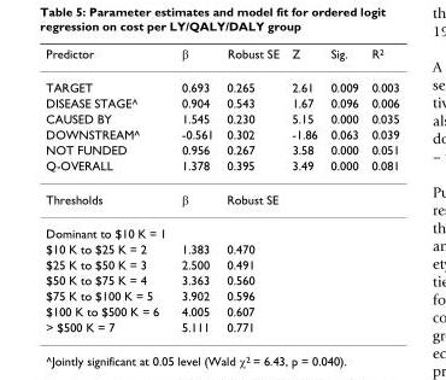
<table><thead><tr><td>Predictor</td><td>β</td><td>Robust SE</td><td>Z</td><td>Sig.</td><td>R<sup>2</sup></td></tr></thead><tbody><tr><td>TARGET</td><td>0.693</td><td>0.265</td><td>2.61</td><td>0.009</td><td>0.003</td></tr><tr><td>DISEASE STAGE^</td><td>0.904</td><td>0.543</td><td>1.67</td><td>0.096</td><td>0.006</td></tr><tr><td>CAUSED BY</td><td>1.545</td><td>0.230</td><td>5.15</td><td>0.000</td><td>0.035</td></tr><tr><td>DOWNSTREAM^</td><td>-0.561</td><td>0.302</td><td>-1.86</td><td>0.063</td><td>0.039</td></tr><tr><td>NOT FUNDED</td><td>0.956</td><td>0.267</td><td>3.58</td><td>0.000</td><td>0.051</td></tr><tr><td>Q-OVERALL</td><td>1.378</td><td>0.395</td><td>3.49</td><td>0.000</td><td>0.081</td></tr><tr><td>Thresholds</td><td>β</td><td>Robust SE</td><td></td><td></td><td></td></tr><tr><td colspan="6">Dominant to $10 K = 1</td></tr><tr><td>$10 K to $25 K = 2</td><td>1.383</td><td>0.470</td><td></td><td></td><td></td></tr><tr><td>$25 K to $50 K = 3</td><td>2.500</td><td>0.491</td><td></td><td></td><td></td></tr><tr><td>$50 K to $75 K = 4</td><td>3.363</td><td>0.560</td><td></td><td></td><td></td></tr><tr><td>$75 K to $100 K = 5</td><td>3.902</td><td>0.596</td><td></td><td></td><td></td></tr><tr><td>$100 K to $500 K = 6</td><td>4.005</td><td>0.607</td><td></td><td></td><td></td></tr><tr><td>&gt; $500 K = 7</td><td>5.111</td><td>0.771</td><td></td><td></td><td></td></tr></tbody></table>